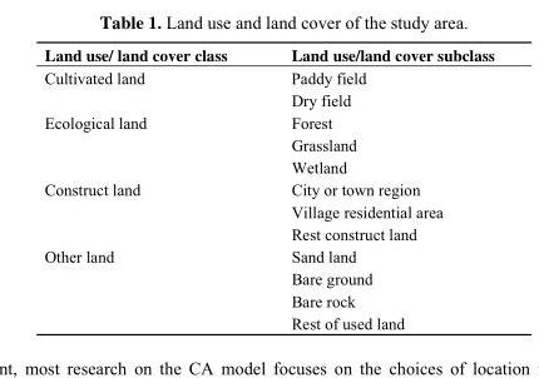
<table><thead><tr><td>Land use/ land cover class</td><td>Land use/land cover subclass</td></tr></thead><tbody><tr><td rowspan="2">Cultivated land</td><td>Paddy field</td></tr><tr><td>Dry field</td></tr><tr><td rowspan="3">Ecological land</td><td>Forest</td></tr><tr><td>Grassland</td></tr><tr><td>Wetland</td></tr><tr><td rowspan="3">Construct land</td><td>City or town region</td></tr><tr><td>Village residential area</td></tr><tr><td>Rest construct land</td></tr><tr><td rowspan="4">Other land</td><td>Sand land</td></tr><tr><td>Bare ground</td></tr><tr><td>Bare rock</td></tr><tr><td>Rest of used land</td></tr></tbody></table>